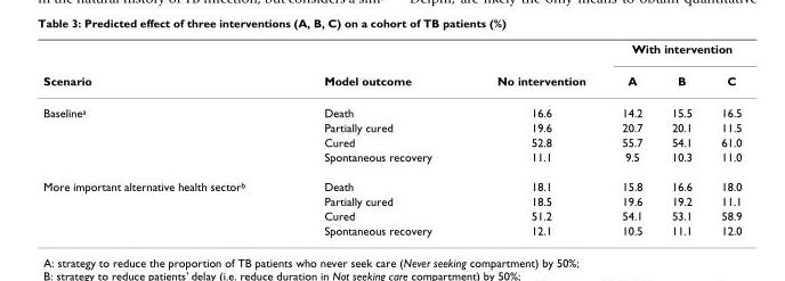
<table><thead><tr><td rowspan="2">Scenario</td><td rowspan="2">Model outcome</td><td rowspan="2">No intervention</td><td colspan="3">With intervention</td></tr><tr><td>A</td><td>B</td><td>C</td></tr></thead><tbody><tr><td rowspan="4">Baseline<sup>a</sup></td><td>Death</td><td>16.6</td><td>14.2</td><td>15.5</td><td>16.5</td></tr><tr><td>Partially cured</td><td>19.6</td><td>20.7</td><td>20.1</td><td>11.5</td></tr><tr><td>Cured</td><td>52.8</td><td>55.7</td><td>54.1</td><td>61.0</td></tr><tr><td>Spontaneous recovery</td><td>11.1</td><td>9.5</td><td>10.3</td><td>11.0</td></tr><tr><td rowspan="4">More important alternative health sector<sup>b</sup></td><td>Death</td><td>18.1</td><td>15.8</td><td>16.6</td><td>18.0</td></tr><tr><td>Partially cured</td><td>18.5</td><td>19.6</td><td>19.2</td><td>11.1</td></tr><tr><td>Cured</td><td>51.2</td><td>54.1</td><td>53.1</td><td>58.9</td></tr><tr><td>Spontaneous recovery</td><td>12.1</td><td>10.5</td><td>11.1</td><td>12.0</td></tr></tbody></table>